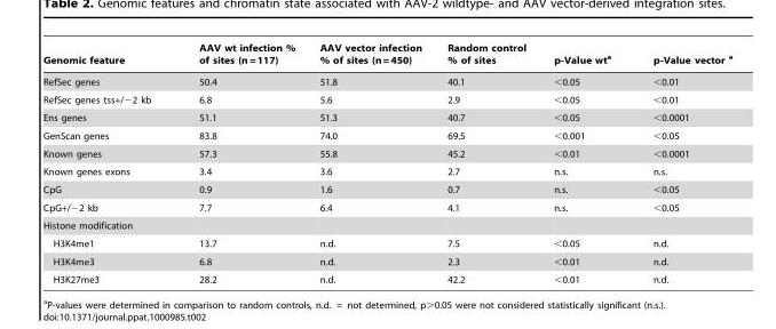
<table><thead><tr><td>Genomic feature</td><td>AAV wt infection % of sites (n = 117)</td><td>AAV vector infection % of sites (n = 450)</td><td>Random control % of sites</td><td>p-Value wt<sup>a</sup></td><td>p-Value vector a</td></tr></thead><tbody><tr><td>RefSec genes</td><td>50.4</td><td>51.8</td><td>40.1</td><td>&lt;0.05</td><td>&lt;0.01</td></tr><tr><td>RefSec genes tss+/−2 kb</td><td>6.8</td><td>5.6</td><td>2.9</td><td>&lt;0.05</td><td>&lt;0.01</td></tr><tr><td>Ens genes</td><td>51.1</td><td>51.3</td><td>40.7</td><td>&lt;0.05</td><td>&lt;0.0001</td></tr><tr><td>GenScan genes</td><td>83.8</td><td>74.0</td><td>69.5</td><td>&lt;0.001</td><td>&lt;0.05</td></tr><tr><td>Known genes</td><td>57.3</td><td>55.8</td><td>45.2</td><td>&lt;0.01</td><td>&lt;0.0001</td></tr><tr><td>Known genes exons</td><td>3.4</td><td>3.6</td><td>2.7</td><td>n.s.</td><td>n.s.</td></tr><tr><td>CpG</td><td>0.9</td><td>1.6</td><td>0.7</td><td>n.s.</td><td>&lt;0.05</td></tr><tr><td>CpG+/−2 kb</td><td>7.7</td><td>6.4</td><td>4.1</td><td>n.s.</td><td>&lt;0.05</td></tr><tr><td colspan="6">Histone modification</td></tr><tr><td>H3K4me1</td><td>13.7</td><td>n.d.</td><td>7.5</td><td>&lt;0.05</td><td>n.d.</td></tr><tr><td>H3K4me3</td><td>6.8</td><td>n.d.</td><td>2.3</td><td>&lt;0.01</td><td>n.d.</td></tr><tr><td>H3K27me3</td><td>28.2</td><td>n.d.</td><td>42.2</td><td>&lt;0.01</td><td>n.d.</td></tr></tbody></table>